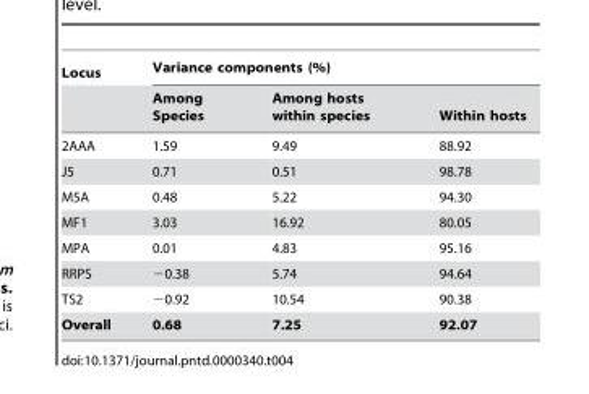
<table><thead><tr><td rowspan="2">Locus</td><td colspan="3">Variance components (%)</td></tr><tr><td>Among Species</td><td>Among hosts within species</td><td>Within hosts</td></tr></thead><tbody><tr><td>2AAA</td><td>1.59</td><td>9.49</td><td>88.92</td></tr><tr><td>J5</td><td>0.71</td><td>0.51</td><td>98.78</td></tr><tr><td>M5A</td><td>0.48</td><td>5.22</td><td>94.30</td></tr><tr><td>MF1</td><td>3.03</td><td>16.92</td><td>80.05</td></tr><tr><td>MPA</td><td>0.01</td><td>4.83</td><td>95.16</td></tr><tr><td>RRPS</td><td>−0.38</td><td>5.74</td><td>94.64</td></tr><tr><td>TS2</td><td>−0.92</td><td>10.54</td><td>90.38</td></tr><tr><td>Overall</td><td>0.68</td><td>7.25</td><td>92.07</td></tr></tbody></table>